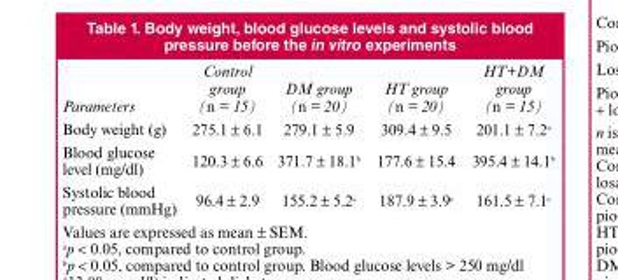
<table><thead><tr><td>Parameters</td><td>Control group (n = 15)</td><td>DM group (n = 20)</td><td>HT group (n = 20)</td><td>HT+DM group (n = 15)</td></tr></thead><tbody><tr><td>Body weight (g)</td><td>275.1 ± 6.1</td><td>279.1 ± 5.9</td><td>309.4 ± 9.5</td><td>201.1 ± 7.2<sup>a</sup></td></tr><tr><td>Blood glucose level (mg/dl)</td><td>120.3 ± 6.6</td><td>371.7 ± 18.1<sup>b</sup></td><td>177.6 ± 15.4</td><td>395.4 ± 14.1<sup>b</sup></td></tr><tr><td>Systolic blood pressure (mmHg)</td><td>96.4 ± 2.9</td><td>155.2 ± 5.2<sup>c</sup></td><td>187.9 ± 3.9<sup>c</sup></td><td>161.5 ± 7.1<sup>c</sup></td></tr></tbody></table>